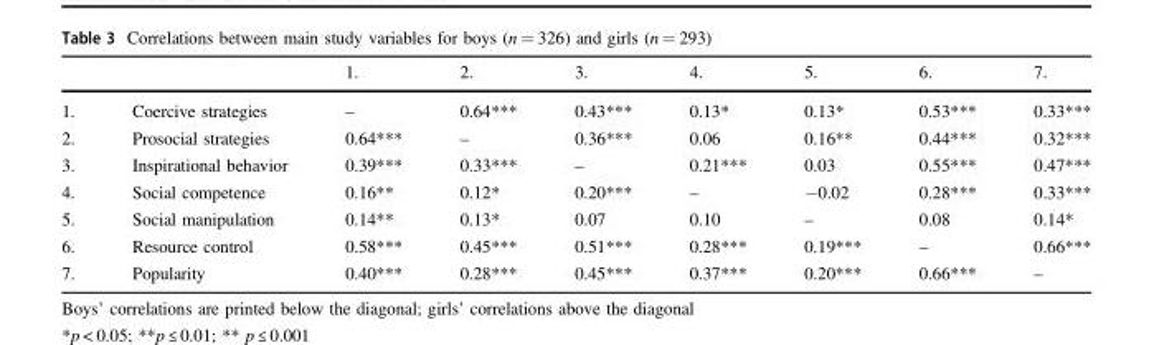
<table><thead><tr><td></td><td></td><td>1.</td><td>2.</td><td>3.</td><td>4.</td><td>5.</td><td>6.</td><td>7.</td></tr></thead><tbody><tr><td>1.</td><td>Coercive strategies</td><td>–</td><td>0.64***</td><td>0.43***</td><td>0.13*</td><td>0.13*</td><td>0.53***</td><td>0.33***</td></tr><tr><td>2.</td><td>Prosocial strategies</td><td>0.64***</td><td>–</td><td>0.36***</td><td>0.06</td><td>0.16**</td><td>0.44***</td><td>0.32***</td></tr><tr><td>3.</td><td>Inspirational behavior</td><td>0.39***</td><td>0.33***</td><td>–</td><td>0.21***</td><td>0.03</td><td>0.55***</td><td>0.47***</td></tr><tr><td>4.</td><td>Social competence</td><td>0.16**</td><td>0.12*</td><td>0.20***</td><td>–</td><td>−0.02</td><td>0.28***</td><td>0.33***</td></tr><tr><td>5.</td><td>Social manipulation</td><td>0.14**</td><td>0.13*</td><td>0.07</td><td>0.10</td><td>–</td><td>0.08</td><td>0.14*</td></tr><tr><td>6.</td><td>Resource control</td><td>0.58***</td><td>0.45***</td><td>0.51***</td><td>0.28***</td><td>0.19***</td><td>–</td><td>0.66***</td></tr><tr><td>7.</td><td>Popularity</td><td>0.40***</td><td>0.28***</td><td>0.45***</td><td>0.37***</td><td>0.20***</td><td>0.66***</td><td>–</td></tr></tbody></table>